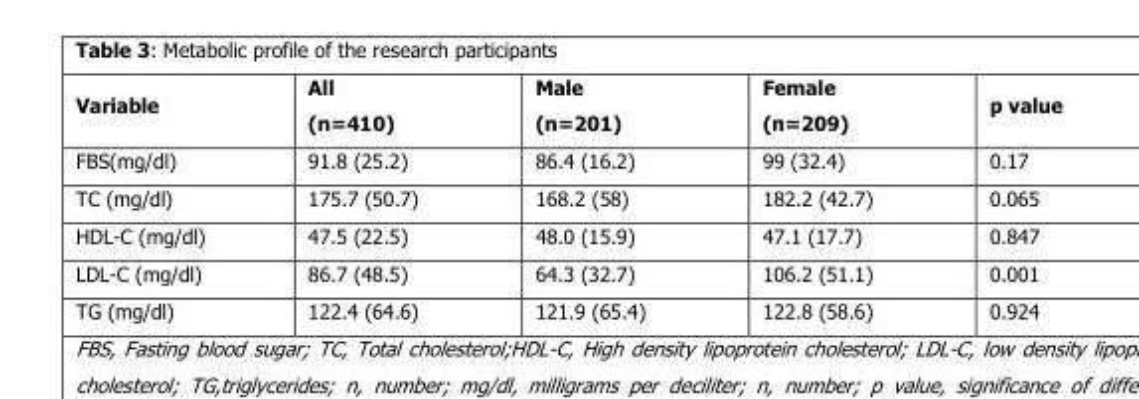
<table><thead><tr><td>Variable</td><td>All (n=410)</td><td>Male (n=201)</td><td>Female (n=209)</td><td>p value</td></tr></thead><tbody><tr><td>FBS(mg/dl)</td><td>91.8 (25.2)</td><td>86.4 (16.2)</td><td>99 (32.4)</td><td>0.17</td></tr><tr><td>TC (mg/dl)</td><td>175.7 (50.7)</td><td>168.2 (58)</td><td>182.2 (42.7)</td><td>0.065</td></tr><tr><td>HDL-C (mg/dl)</td><td>47.5 (22.5)</td><td>48.0 (15.9)</td><td>47.1 (17.7)</td><td>0.847</td></tr><tr><td>LDL-C (mg/dl)</td><td>86.7 (48.5)</td><td>64.3 (32.7)</td><td>106.2 (51.1)</td><td>0.001</td></tr><tr><td>TG (mg/dl)</td><td>122.4 (64.6)</td><td>121.9 (65.4)</td><td>122.8 (58.6)</td><td>0.924</td></tr></tbody></table>